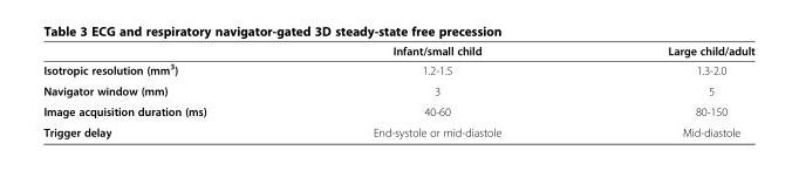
<table><thead><tr><td></td><td>Infant/small child</td><td>Large child/adult</td></tr></thead><tbody><tr><td>Isotropic resolution (mm<sup>3</sup>)</td><td>1.2-1.5</td><td>1.3-2.0</td></tr><tr><td>Navigator window (mm)</td><td>3</td><td>5</td></tr><tr><td>Image acquisition duration (ms)</td><td>40-60</td><td>80-150</td></tr><tr><td>Trigger delay</td><td>End-systole or mid-diastole</td><td>Mid-diastole</td></tr></tbody></table>